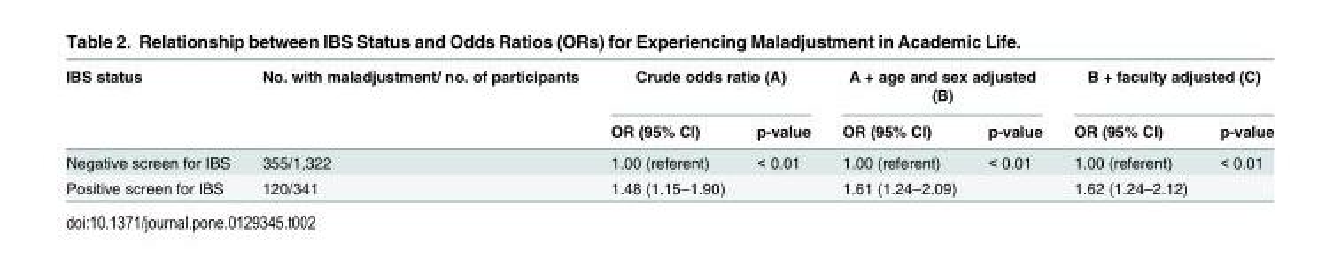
<table><thead><tr><td rowspan="2">IBS status</td><td rowspan="2">No. with maladjustment/ no. of participants</td><td colspan="2">Crude odds ratio (A)</td><td colspan="2">A + age and sex adjusted (B)</td><td colspan="2">B + faculty adjusted (C)</td></tr><tr><td>OR (95% CI)</td><td>p-value</td><td>OR (95% CI)</td><td>p-value</td><td>OR (95% CI)</td><td>p-value</td></tr></thead><tbody><tr><td>Negative screen for IBS</td><td>355/1,322</td><td>1.00 (referent)</td><td>&lt; 0.01</td><td>1.00 (referent)</td><td>&lt; 0.01</td><td>1.00 (referent)</td><td>&lt; 0.01</td></tr><tr><td>Positive screen for IBS</td><td>120/341</td><td>1.48 (1.15–1.90)</td><td></td><td>1.61 (1.24–2.09)</td><td></td><td>1.62 (1.24–2.12)</td><td></td></tr></tbody></table>